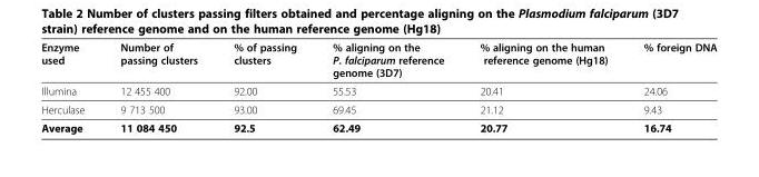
<table><thead><tr><td>Enzyme used</td><td>Number of passing clusters</td><td>% of passing clusters</td><td>% aligning on the P. falciparum reference genome (3D7)</td><td>% aligning on the human reference genome (Hg18)</td><td>% foreign DNA</td></tr></thead><tbody><tr><td>Illumina</td><td>12 455 400</td><td>92.00</td><td>55.53</td><td>20.41</td><td>24.06</td></tr><tr><td>Herculase</td><td>9 713 500</td><td>93.00</td><td>69.45</td><td>21.12</td><td>9.43</td></tr><tr><td>Average</td><td>11 084 450</td><td>92.5</td><td>62.49</td><td>20.77</td><td>16.74</td></tr></tbody></table>